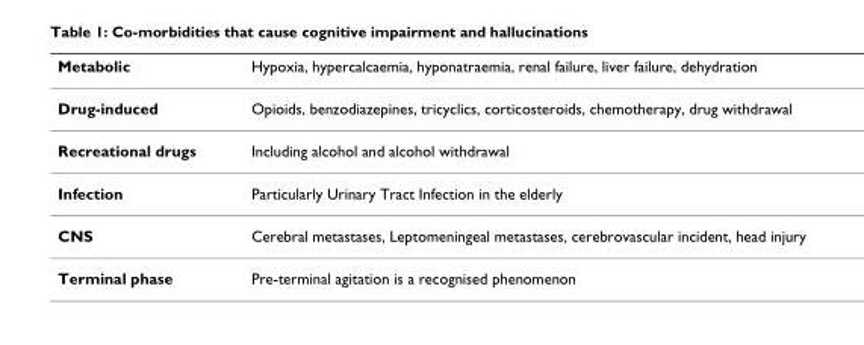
<table><thead><tr><td>Metabolic</td><td>Hypoxia, hypercalcaemia, hyponatraemia, renal failure, liver failure, dehydration</td></tr></thead><tbody><tr><td>Drug-induced</td><td>Opioids, benzodiazepines, tricyclics, corticosteroids, chemotherapy, drug withdrawal</td></tr><tr><td>Recreational drugs</td><td>Including alcohol and alcohol withdrawal</td></tr><tr><td>Infection</td><td>Particularly Urinary Tract Infection in the elderly</td></tr><tr><td>CNS</td><td>Cerebral metastases, Leptomeningeal metastases, cerebrovascular incident, head injury</td></tr><tr><td>Terminal phase</td><td>Pre-terminal agitation is a recognised phenomenon</td></tr></tbody></table>